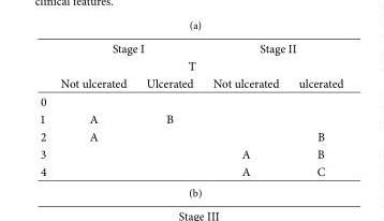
<table><thead><tr><td></td><td colspan="2">Stage I</td><td colspan="2">Stage II</td></tr><tr><td colspan="5">T</td></tr><tr><td></td><td>Not ulcerated</td><td>Ulcerated</td><td>Not ulcerated</td><td>ulcerated</td></tr></thead><tbody><tr><td colspan="5">0</td></tr><tr><td>1</td><td>A</td><td>B</td><td></td><td></td></tr><tr><td>2</td><td>A</td><td></td><td></td><td>B</td></tr><tr><td>3</td><td></td><td></td><td>A</td><td>B</td></tr><tr><td>4</td><td></td><td></td><td>A</td><td>C</td></tr></tbody></table>